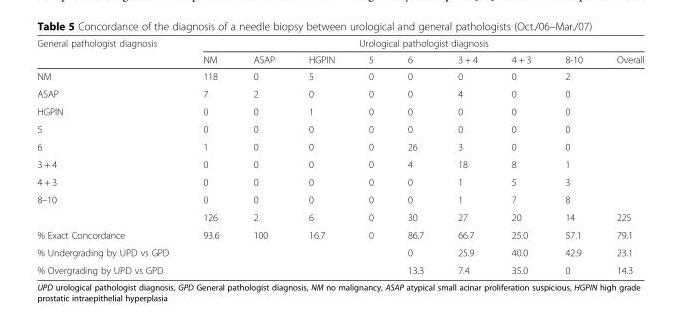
<table><thead><tr><td rowspan="2">General pathologist diagnosis</td><td colspan="9">Urological pathologist diagnosis</td></tr><tr><td>NM</td><td>ASAP</td><td>HGPIN</td><td>5</td><td>6</td><td>3 + 4</td><td>4 + 3</td><td>8-10</td><td>Overall</td></tr></thead><tbody><tr><td>NM</td><td>118</td><td>0</td><td>5</td><td>0</td><td>0</td><td>0</td><td>0</td><td>2</td><td></td></tr><tr><td>ASAP</td><td>7</td><td>2</td><td>0</td><td>0</td><td>0</td><td>4</td><td>0</td><td>0</td><td></td></tr><tr><td>HGPIN</td><td>0</td><td>0</td><td>1</td><td>0</td><td>0</td><td>0</td><td>0</td><td>0</td><td></td></tr><tr><td>5</td><td>0</td><td>0</td><td>0</td><td>0</td><td>0</td><td>0</td><td>0</td><td>0</td><td></td></tr><tr><td>6</td><td>1</td><td>0</td><td>0</td><td>0</td><td>26</td><td>3</td><td>0</td><td>0</td><td></td></tr><tr><td>3 + 4</td><td>0</td><td>0</td><td>0</td><td>0</td><td>4</td><td>18</td><td>8</td><td>1</td><td></td></tr><tr><td>4 + 3</td><td>0</td><td>0</td><td>0</td><td>0</td><td>0</td><td>1</td><td>5</td><td>3</td><td></td></tr><tr><td rowspan="2">8–10</td><td>0</td><td>0</td><td>0</td><td>0</td><td>0</td><td>1</td><td>7</td><td>8</td><td></td></tr><tr><td>126</td><td>2</td><td>6</td><td>0</td><td>30</td><td>27</td><td>20</td><td>14</td><td>225</td></tr><tr><td>% Exact Concordance</td><td>93.6</td><td>100</td><td>16.7</td><td>0</td><td>86.7</td><td>66.7</td><td>25.0</td><td>57.1</td><td>79.1</td></tr><tr><td>% Undergrading by UPD vs GPD</td><td></td><td></td><td></td><td></td><td>0</td><td>25.9</td><td>40.0</td><td>42.9</td><td>23.1</td></tr><tr><td>% Overgrading by UPD vs GPD</td><td></td><td></td><td></td><td></td><td>13.3</td><td>7.4</td><td>35.0</td><td>0</td><td>14.3</td></tr></tbody></table>